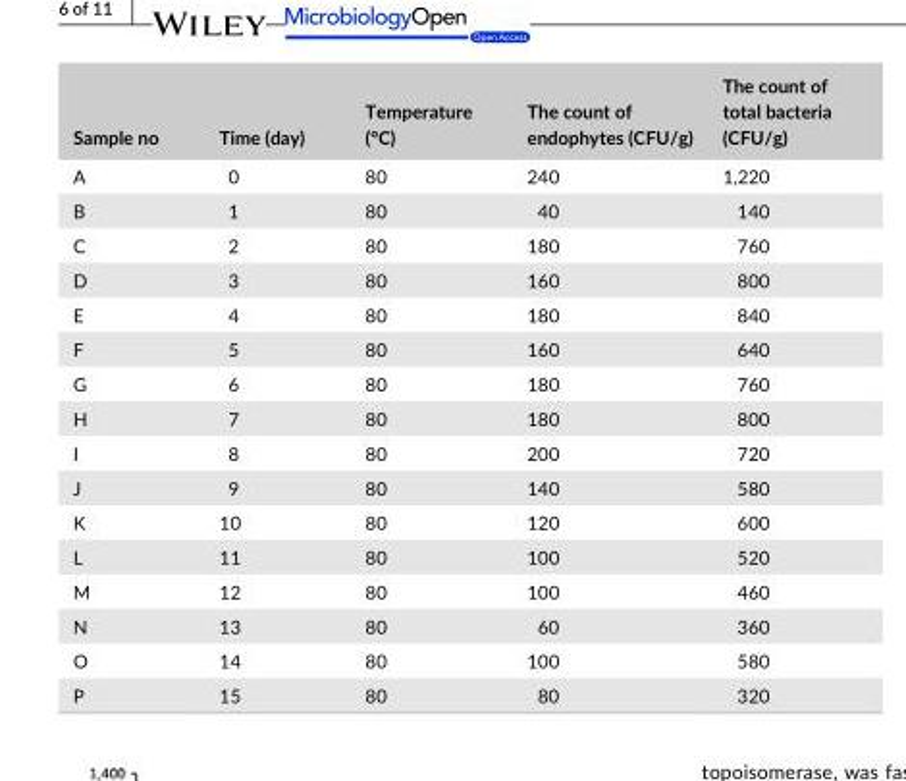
<table><thead><tr><td>Sample no</td><td>Time (day)</td><td>Temperature (°C)</td><td>The count of endophytes (CFU/g)</td><td>The count of total bacteria (CFU/g)</td></tr></thead><tbody><tr><td>A</td><td>0</td><td>80</td><td>240</td><td>1,220</td></tr><tr><td>B</td><td>1</td><td>80</td><td>40</td><td>140</td></tr><tr><td>C</td><td>2</td><td>80</td><td>180</td><td>760</td></tr><tr><td>D</td><td>3</td><td>80</td><td>160</td><td>800</td></tr><tr><td>E</td><td>4</td><td>80</td><td>180</td><td>840</td></tr><tr><td>F</td><td>5</td><td>80</td><td>160</td><td>640</td></tr><tr><td>G</td><td>6</td><td>80</td><td>180</td><td>760</td></tr><tr><td>H</td><td>7</td><td>80</td><td>180</td><td>800</td></tr><tr><td>I</td><td>8</td><td>80</td><td>200</td><td>720</td></tr><tr><td>J</td><td>9</td><td>80</td><td>140</td><td>580</td></tr><tr><td>K</td><td>10</td><td>80</td><td>120</td><td>600</td></tr><tr><td>L</td><td>11</td><td>80</td><td>100</td><td>520</td></tr><tr><td>M</td><td>12</td><td>80</td><td>100</td><td>460</td></tr><tr><td>N</td><td>13</td><td>80</td><td>60</td><td>360</td></tr><tr><td>O</td><td>14</td><td>80</td><td>100</td><td>580</td></tr><tr><td>P</td><td>15</td><td>80</td><td>80</td><td>320</td></tr></tbody></table>